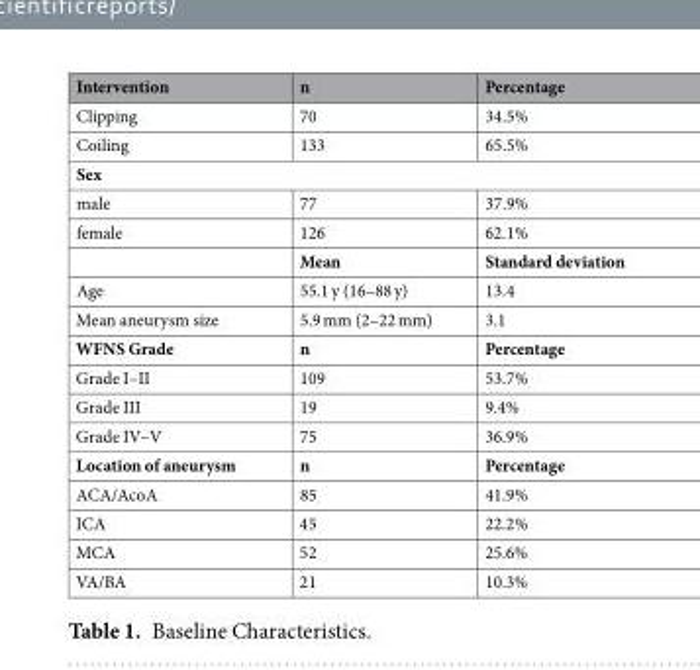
<table><thead><tr><td>Intervention</td><td>n</td><td>Percentage</td></tr></thead><tbody><tr><td>Clipping</td><td>70</td><td>34.5%</td></tr><tr><td>Coiling</td><td>133</td><td>65.5%</td></tr><tr><td colspan="3">Sex</td></tr><tr><td>male</td><td>77</td><td>37.9%</td></tr><tr><td rowspan="2">female</td><td>126</td><td>62.1%</td></tr><tr><td>Mean</td><td>Standard deviation</td></tr><tr><td>Age</td><td>55.1 y (16–88 y)</td><td>13.4</td></tr><tr><td>Mean aneurysm size</td><td>5.9 mm (2–22 mm)</td><td>3.1</td></tr><tr><td>WFNS Grade</td><td>n</td><td>Percentage</td></tr><tr><td>Grade I–II</td><td>109</td><td>53.7%</td></tr><tr><td>Grade III</td><td>19</td><td>9.4%</td></tr><tr><td>Grade IV–V</td><td>75</td><td>36.9%</td></tr><tr><td>Location of aneurysm</td><td>n</td><td>Percentage</td></tr><tr><td>ACA/AcoA</td><td>85</td><td>41.9%</td></tr><tr><td>ICA</td><td>45</td><td>22.2%</td></tr><tr><td>MCA</td><td>52</td><td>25.6%</td></tr><tr><td>VA/BA</td><td>21</td><td>10.3%</td></tr></tbody></table>